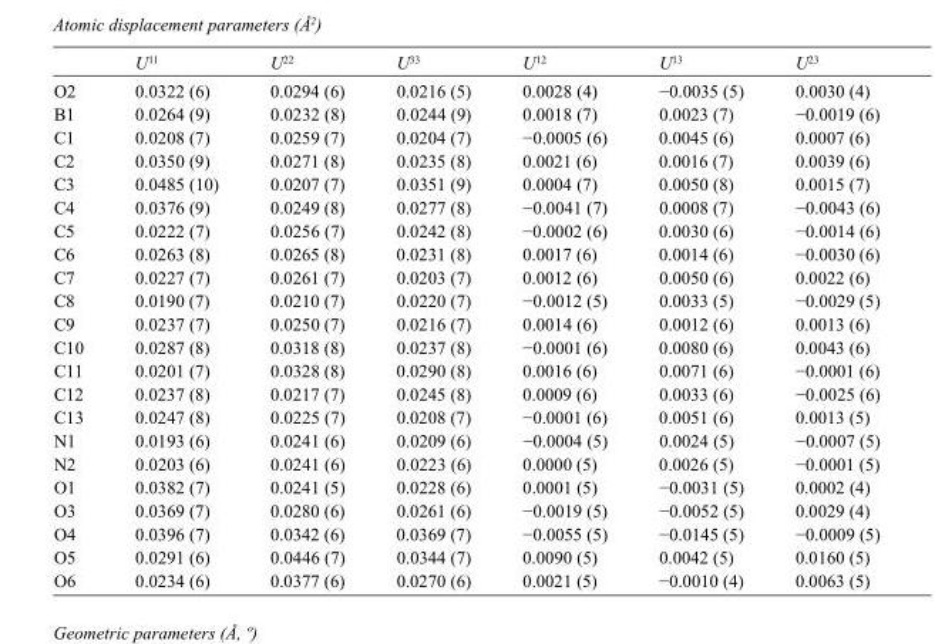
<table><thead><tr><td></td><td>U<sup>11</sup></td><td>U<sup>22</sup></td><td>U<sup>33</sup></td><td>U<sup>12</sup></td><td>U<sup>13</sup></td><td>U<sup>23</sup></td></tr></thead><tbody><tr><td>O2</td><td>0.0322 (6)</td><td>0.0294 (6)</td><td>0.0216 (5)</td><td>0.0028 (4)</td><td>−0.0035 (5)</td><td>0.0030 (4)</td></tr><tr><td>B1</td><td>0.0264 (9)</td><td>0.0232 (8)</td><td>0.0244 (9)</td><td>0.0018 (7)</td><td>0.0023 (7)</td><td>−0.0019 (6)</td></tr><tr><td>C1</td><td>0.0208 (7)</td><td>0.0259 (7)</td><td>0.0204 (7)</td><td>−0.0005 (6)</td><td>0.0045 (6)</td><td>0.0007 (6)</td></tr><tr><td>C2</td><td>0.0350 (9)</td><td>0.0271 (8)</td><td>0.0235 (8)</td><td>0.0021 (6)</td><td>0.0016 (7)</td><td>0.0039 (6)</td></tr><tr><td>C3</td><td>0.0485 (10)</td><td>0.0207 (7)</td><td>0.0351 (9)</td><td>0.0004 (7)</td><td>0.0050 (8)</td><td>0.0015 (7)</td></tr><tr><td>C4</td><td>0.0376 (9)</td><td>0.0249 (8)</td><td>0.0277 (8)</td><td>−0.0041 (7)</td><td>0.0008 (7)</td><td>−0.0043 (6)</td></tr><tr><td>C5</td><td>0.0222 (7)</td><td>0.0256 (7)</td><td>0.0242 (8)</td><td>−0.0002 (6)</td><td>0.0030 (6)</td><td>−0.0014 (6)</td></tr><tr><td>C6</td><td>0.0263 (8)</td><td>0.0265 (8)</td><td>0.0231 (8)</td><td>0.0017 (6)</td><td>0.0014 (6)</td><td>−0.0030 (6)</td></tr><tr><td>C7</td><td>0.0227 (7)</td><td>0.0261 (7)</td><td>0.0203 (7)</td><td>0.0012 (6)</td><td>0.0050 (6)</td><td>0.0022 (6)</td></tr><tr><td>C8</td><td>0.0190 (7)</td><td>0.0210 (7)</td><td>0.0220 (7)</td><td>−0.0012 (5)</td><td>0.0033 (5)</td><td>−0.0029 (5)</td></tr><tr><td>C9</td><td>0.0237 (7)</td><td>0.0250 (7)</td><td>0.0216 (7)</td><td>0.0014 (6)</td><td>0.0012 (6)</td><td>0.0013 (6)</td></tr><tr><td>C10</td><td>0.0287 (8)</td><td>0.0318 (8)</td><td>0.0237 (8)</td><td>−0.0001 (6)</td><td>0.0080 (6)</td><td>0.0043 (6)</td></tr><tr><td>C11</td><td>0.0201 (7)</td><td>0.0328 (8)</td><td>0.0290 (8)</td><td>0.0016 (6)</td><td>0.0071 (6)</td><td>−0.0001 (6)</td></tr><tr><td>C12</td><td>0.0237 (8)</td><td>0.0217 (7)</td><td>0.0245 (8)</td><td>0.0009 (6)</td><td>0.0033 (6)</td><td>−0.0025 (6)</td></tr><tr><td>C13</td><td>0.0247 (8)</td><td>0.0225 (7)</td><td>0.0208 (7)</td><td>−0.0001 (6)</td><td>0.0051 (6)</td><td>0.0013 (5)</td></tr><tr><td>N1</td><td>0.0193 (6)</td><td>0.0241 (6)</td><td>0.0209 (6)</td><td>−0.0004 (5)</td><td>0.0024 (5)</td><td>−0.0007 (5)</td></tr><tr><td>N2</td><td>0.0203 (6)</td><td>0.0241 (6)</td><td>0.0223 (6)</td><td>0.0000 (5)</td><td>0.0026 (5)</td><td>−0.0001 (5)</td></tr><tr><td>O1</td><td>0.0382 (7)</td><td>0.0241 (5)</td><td>0.0228 (6)</td><td>0.0001 (5)</td><td>−0.0031 (5)</td><td>0.0002 (4)</td></tr><tr><td>O3</td><td>0.0369 (7)</td><td>0.0280 (6)</td><td>0.0261 (6)</td><td>−0.0019 (5)</td><td>−0.0052 (5)</td><td>0.0029 (4)</td></tr><tr><td>O4</td><td>0.0396 (7)</td><td>0.0342 (6)</td><td>0.0369 (7)</td><td>−0.0055 (5)</td><td>−0.0145 (5)</td><td>−0.0009 (5)</td></tr><tr><td>O5</td><td>0.0291 (6)</td><td>0.0446 (7)</td><td>0.0344 (7)</td><td>0.0090 (5)</td><td>0.0042 (5)</td><td>0.0160 (5)</td></tr><tr><td>O6</td><td>0.0234 (6)</td><td>0.0377 (6)</td><td>0.0270 (6)</td><td>0.0021 (5)</td><td>−0.0010 (4)</td><td>0.0063 (5)</td></tr></tbody></table>